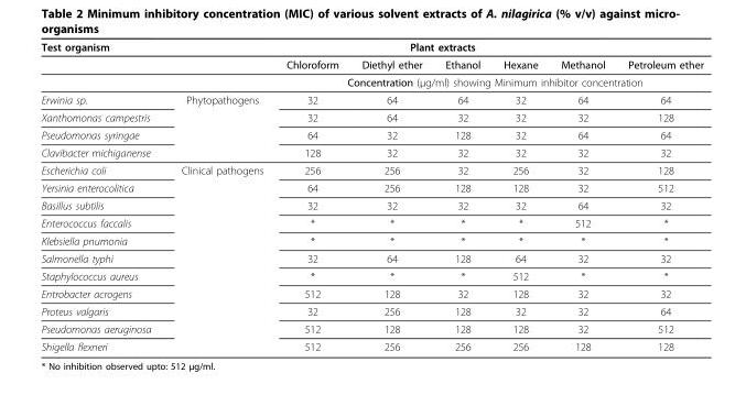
<table><thead><tr><td rowspan="2">Test organism</td><td colspan="7">Plant extracts</td></tr><tr><td></td><td>Chloroform</td><td>Diethyl ether</td><td>Ethanol</td><td>Hexane</td><td>Methanol</td><td>Petroleum ether</td></tr></thead><tbody><tr><td></td><td></td><td colspan="6">Concentration (μg/ml) showing Minimum inhibitor concentration</td></tr><tr><td>Erwinia sp.</td><td>Phytopathogens</td><td>32</td><td>64</td><td>64</td><td>32</td><td>64</td><td>64</td></tr><tr><td>Xanthomonas campestris</td><td></td><td>32</td><td>64</td><td>32</td><td>32</td><td>32</td><td>128</td></tr><tr><td>Pseudomonas syringae</td><td></td><td>64</td><td>32</td><td>128</td><td>32</td><td>64</td><td>64</td></tr><tr><td>Clavibacter michiganense</td><td></td><td>128</td><td>32</td><td>32</td><td>32</td><td>32</td><td>32</td></tr><tr><td>Escherichia coli</td><td>Clinical pathogens</td><td>256</td><td>256</td><td>32</td><td>256</td><td>32</td><td>128</td></tr><tr><td>Yersinia enterocolitica</td><td></td><td>64</td><td>256</td><td>128</td><td>128</td><td>32</td><td>512</td></tr><tr><td>Basillus subtilis</td><td></td><td>32</td><td>32</td><td>32</td><td>32</td><td>64</td><td>32</td></tr><tr><td>Enterococcus faccalis</td><td></td><td>*</td><td>*</td><td>*</td><td>*</td><td>512</td><td>*</td></tr><tr><td>Klebsiella pnumonia</td><td></td><td>*</td><td>*</td><td>*</td><td>*</td><td>*</td><td>*</td></tr><tr><td>Salmonella typhi</td><td></td><td>32</td><td>64</td><td>128</td><td>64</td><td>32</td><td>32</td></tr><tr><td>Staphylococcus aureus</td><td></td><td>*</td><td>*</td><td>*</td><td>512</td><td>*</td><td>*</td></tr><tr><td>Entrobacter acrogens</td><td></td><td>512</td><td>128</td><td>32</td><td>128</td><td>32</td><td>32</td></tr><tr><td>Proteus valgaris</td><td></td><td>32</td><td>256</td><td>128</td><td>32</td><td>32</td><td>64</td></tr><tr><td>Pseudomonas aeruginosa</td><td></td><td>512</td><td>128</td><td>128</td><td>128</td><td>32</td><td>512</td></tr><tr><td>Shigella flexneri</td><td></td><td>512</td><td>256</td><td>256</td><td>256</td><td>128</td><td>128</td></tr></tbody></table>